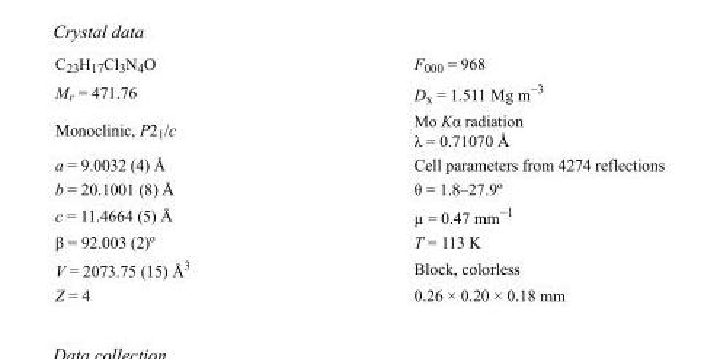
<table><tbody><tr><td>C<sub>23</sub>H<sub>17</sub>Cl<sub>3</sub>N<sub>4</sub>O</td><td>F000 = 968</td></tr><tr><td>M<sub>r</sub> = 471.76</td><td>D<sub>x</sub> = 1.511 Mg m<sup>−3</sup></td></tr><tr><td>Monoclinic, P2<sub>1</sub>/c</td><td>Mo Kα radiation λ = 0.71070 Å</td></tr><tr><td>a = 9.0032 (4) Å</td><td>Cell parameters from 4274 reflections</td></tr><tr><td>b = 20.1001 (8) Å</td><td>θ = 1.8–27.9º</td></tr><tr><td>c = 11.4664 (5) Å</td><td>µ = 0.47 mm<sup>−1</sup></td></tr><tr><td>β = 92.003 (2)º</td><td>T = 113 K</td></tr><tr><td>V = 2073.75 (15) Å<sup>3</sup></td><td>Block, colorless</td></tr><tr><td>Z = 4</td><td>0.26 × 0.20 × 0.18 mm</td></tr></tbody></table>